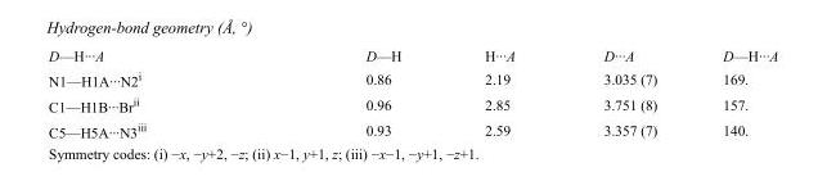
<table><tbody><tr><td>D—H···A</td><td>D—H</td><td>H···A</td><td>D···A</td><td>D—H···A</td></tr><tr><td>N1—H1A···N2<sup>i</sup></td><td>0.86</td><td>2.19</td><td>3.035 (7)</td><td>169.</td></tr><tr><td>C1—H1B···Br<sup>ii</sup></td><td>0.96</td><td>2.85</td><td>3.751 (8)</td><td>157.</td></tr><tr><td>C5—H5A···N3<sup>iii</sup></td><td>0.93</td><td>2.59</td><td>3.357 (7)</td><td>140.</td></tr></tbody></table>